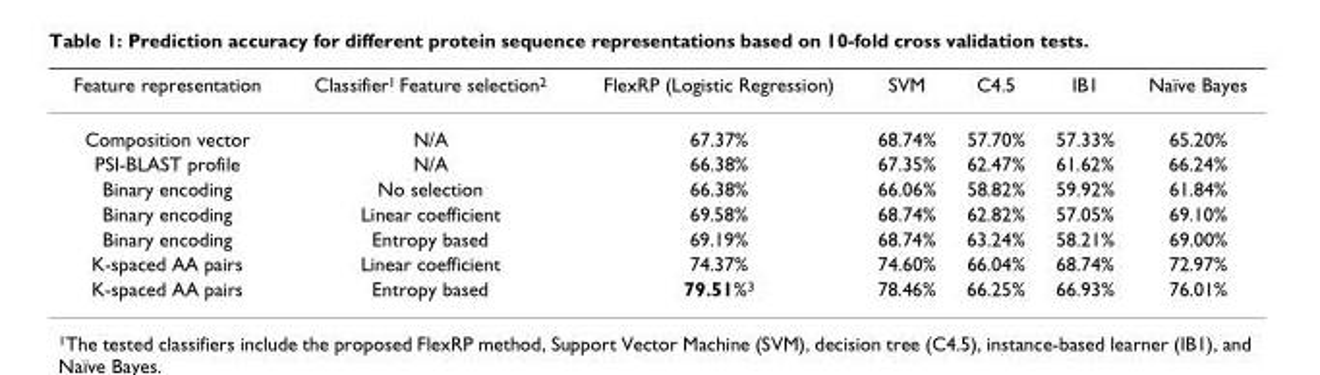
<table><thead><tr><td>Feature representation</td><td>Classifier1 Feature selection2</td><td>FlexRP (Logistic Regression)</td><td>SVM</td><td>C4.5</td><td>IB1</td><td>Naïve Bayes</td></tr></thead><tbody><tr><td>Composition vector</td><td>N/A</td><td>67.37%</td><td>68.74%</td><td>57.70%</td><td>57.33%</td><td>65.20%</td></tr><tr><td>PSI-BLAST profile</td><td>N/A</td><td>66.38%</td><td>67.35%</td><td>62.47%</td><td>61.62%</td><td>66.24%</td></tr><tr><td>Binary encoding</td><td>No selection</td><td>66.38%</td><td>66.06%</td><td>58.82%</td><td>59.92%</td><td>61.84%</td></tr><tr><td>Binary encoding</td><td>Linear coefficient</td><td>69.58%</td><td>68.74%</td><td>62.82%</td><td>57.05%</td><td>69.10%</td></tr><tr><td>Binary encoding</td><td>Entropy based</td><td>69.19%</td><td>68.74%</td><td>63.24%</td><td>58.21%</td><td>69.00%</td></tr><tr><td>K-spaced AA pairs</td><td>Linear coefficient</td><td>74.37%</td><td>74.60%</td><td>66.04%</td><td>68.74%</td><td>72.97%</td></tr><tr><td>K-spaced AA pairs</td><td>Entropy based</td><td>79.51%3</td><td>78.46%</td><td>66.25%</td><td>66.93%</td><td>76.01%</td></tr></tbody></table>